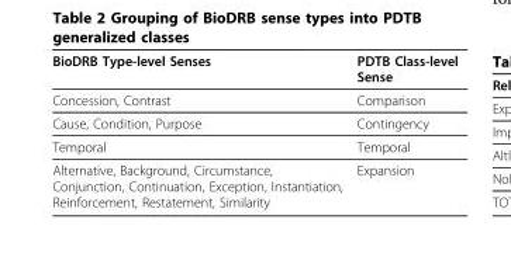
<table><thead><tr><td>BioDRB Type-level Senses</td><td>PDTB Class-level Sense</td></tr></thead><tbody><tr><td>Concession, Contrast</td><td>Comparison</td></tr><tr><td>Cause, Condition, Purpose</td><td>Contingency</td></tr><tr><td>Temporal</td><td>Temporal</td></tr><tr><td>Alternative, Background, Circumstance, Conjunction, Continuation, Exception, Instantiation, Reinforcement, Restatement, Similarity</td><td>Expansion</td></tr></tbody></table>